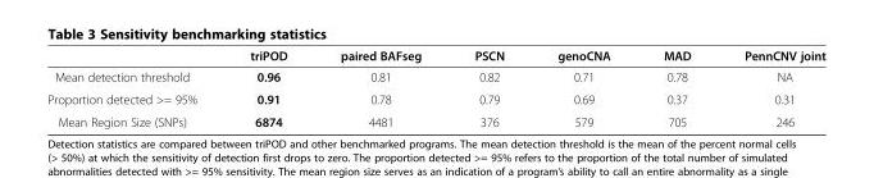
<table><thead><tr><td></td><td>triPOD</td><td>paired BAFseg</td><td>PSCN</td><td>genoCNA</td><td>MAD</td><td>PennCNV joint</td></tr></thead><tbody><tr><td>Mean detection threshold</td><td>0.96</td><td>0.81</td><td>0.82</td><td>0.71</td><td>0.78</td><td>NA</td></tr><tr><td>Proportion detected &gt;= 95%</td><td>0.91</td><td>0.78</td><td>0.79</td><td>0.69</td><td>0.37</td><td>0.31</td></tr><tr><td>Mean Region Size (SNPs)</td><td>6874</td><td>4481</td><td>376</td><td>579</td><td>705</td><td>246</td></tr></tbody></table>